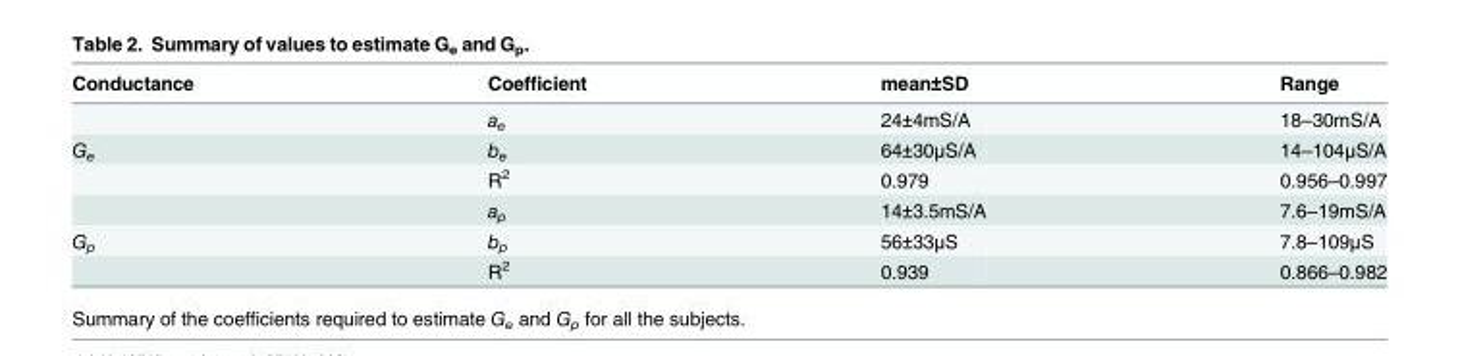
<table><thead><tr><td>Conductance</td><td>Coefficient</td><td>mean±SD</td><td>Range</td></tr></thead><tbody><tr><td></td><td>a<sub>e</sub></td><td>24±4mS/A</td><td>18–30mS/A</td></tr><tr><td rowspan="3">G<sub>e</sub></td><td>b<sub>e</sub></td><td>64±30μS/A</td><td>14–104μS/A</td></tr><tr><td>R<sup>2</sup></td><td>0.979</td><td>0.956–0.997</td></tr><tr><td>a<sub>p</sub></td><td>14±3.5mS/A</td><td>7.6–19mS/A</td></tr><tr><td rowspan="2">G<sub>p</sub></td><td>b<sub>p</sub></td><td>56±33μS</td><td>7.8–109μS</td></tr><tr><td>R<sup>2</sup></td><td>0.939</td><td>0.866–0.982</td></tr></tbody></table>